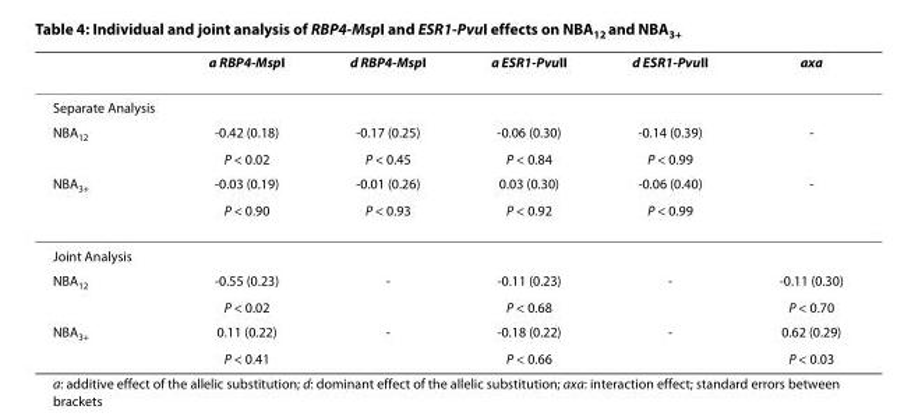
<table><thead><tr><td></td><td>a RBP4-MspI</td><td>d RBP4-MspI</td><td>a ESR1-PvuII</td><td>d ESR1-PvuII</td><td>axa</td></tr></thead><tbody><tr><td colspan="6">Separate Analysis</td></tr><tr><td rowspan="2">NBA<sub>12</sub></td><td>-0.42 (0.18)</td><td>-0.17 (0.25)</td><td>-0.06 (0.30)</td><td>-0.14 (0.39)</td><td>-</td></tr><tr><td>P &lt; 0.02</td><td>P &lt; 0.45</td><td>P &lt; 0.84</td><td>P &lt; 0.99</td><td></td></tr><tr><td rowspan="2">NBA<sub>3+</sub></td><td>-0.03 (0.19)</td><td>-0.01 (0.26)</td><td>0.03 (0.30)</td><td>-0.06 (0.40)</td><td>-</td></tr><tr><td>P &lt; 0.90</td><td>P &lt; 0.93</td><td>P &lt; 0.92</td><td>P &lt; 0.99</td><td></td></tr><tr><td colspan="6">Joint Analysis</td></tr><tr><td rowspan="2">NBA<sub>12</sub></td><td>-0.55 (0.23)</td><td>-</td><td>-0.11 (0.23)</td><td>-</td><td>-0.11 (0.30)</td></tr><tr><td>P &lt; 0.02</td><td></td><td>P &lt; 0.68</td><td></td><td>P &lt; 0.70</td></tr><tr><td rowspan="2">NBA<sub>3+</sub></td><td>0.11 (0.22)</td><td>-</td><td>-0.18 (0.22)</td><td>-</td><td>0.62 (0.29)</td></tr><tr><td>P &lt; 0.41</td><td></td><td>P &lt; 0.66</td><td></td><td>P &lt; 0.03</td></tr></tbody></table>